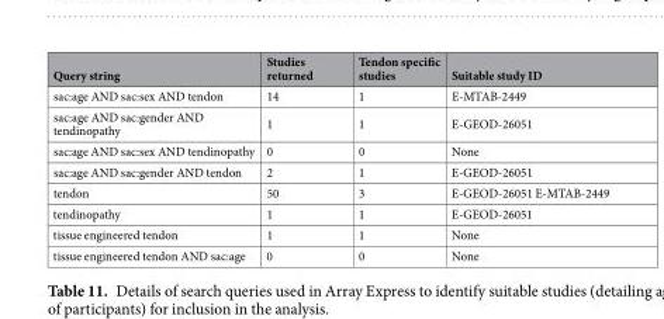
<table><thead><tr><td>Query string</td><td>Studies returned</td><td>Tendon specific studies</td><td>Suitable study ID</td></tr></thead><tbody><tr><td>sac:age AND sac:sex AND tendon</td><td>14</td><td>1</td><td>E-MTAB-2449</td></tr><tr><td>sac:age AND sac:gender AND tendinopathy</td><td>1</td><td>1</td><td>E-GEOD-26051</td></tr><tr><td>sac:age AND sac:sex AND tendinopathy</td><td>0</td><td>0</td><td>None</td></tr><tr><td>sac:age AND sac:gender AND tendon</td><td>2</td><td>1</td><td>E-GEOD-26051</td></tr><tr><td>tendon</td><td>50</td><td>3</td><td>E-GEOD-26051 E-MTAB-2449</td></tr><tr><td>tendinopathy</td><td>1</td><td>1</td><td>E-GEOD-26051</td></tr><tr><td>tissue engineered tendon</td><td>1</td><td>1</td><td>None</td></tr><tr><td>tissue engineered tendon AND sac:age</td><td>0</td><td>0</td><td>None</td></tr></tbody></table>